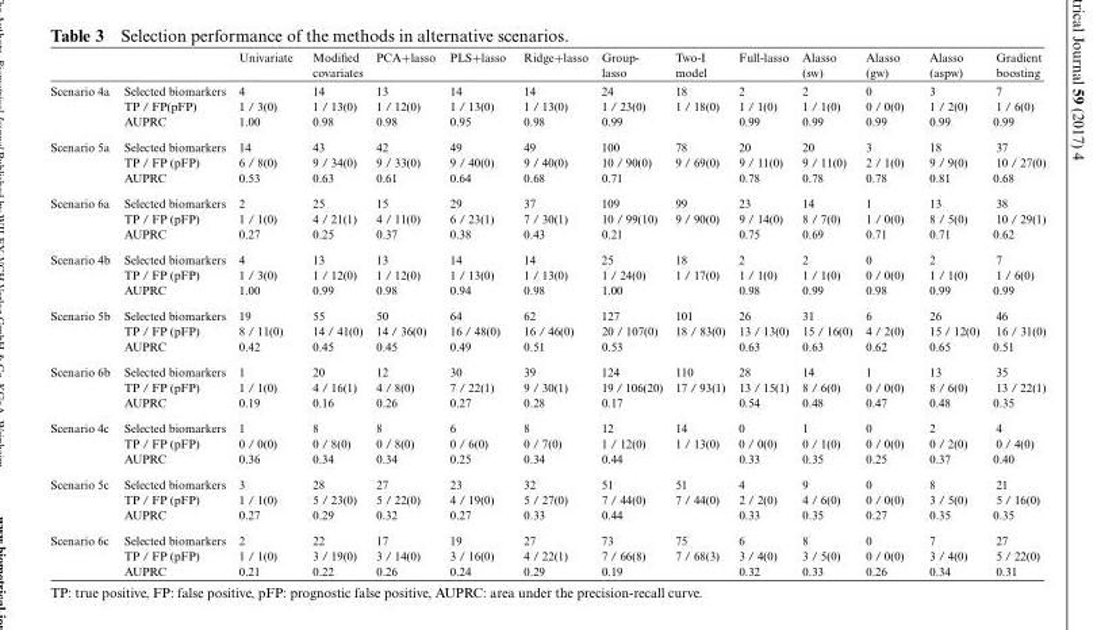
<table><thead><tr><td></td><td></td><td>Univariate</td><td>Modified covariates</td><td>PCA+lasso</td><td>PLS+lasso</td><td>Ridge+lasso</td><td>Group- lasso</td><td>Two-I model</td><td>Full-lasso</td><td>Alasso (sw)</td><td>Alasso (gw)</td><td>Alasso (aspw)</td><td>Gradient boosting</td></tr></thead><tbody><tr><td rowspan="3">Scenario 4a</td><td>Selected biomarkers</td><td>4</td><td>14</td><td>13</td><td>14</td><td>14</td><td>24</td><td>18</td><td>2</td><td>2</td><td>0</td><td>3</td><td>7</td></tr><tr><td>TP / FP(pFP)</td><td>1 / 3(0)</td><td>1 / 13(0)</td><td>1 / 12(0)</td><td>1 / 13(0)</td><td>1 / 13(0)</td><td>1 / 23(0)</td><td>1 / 18(0)</td><td>1 / 1(0)</td><td>1 / 1(0)</td><td>0 / 0(0)</td><td>1 / 2(0)</td><td>1 / 6(0)</td></tr><tr><td>AUPRC</td><td>1.00</td><td>0.98</td><td>0.98</td><td>0.95</td><td>0.98</td><td>0.99</td><td></td><td>0.99</td><td>0.99</td><td>0.99</td><td>0.99</td><td>0.99</td></tr><tr><td rowspan="3">Scenario 5a</td><td>Selected biomarkers</td><td>14</td><td>43</td><td>42</td><td>49</td><td>49</td><td>100</td><td>78</td><td>20</td><td>20</td><td>3</td><td>18</td><td>37</td></tr><tr><td>TP / FP (pFP)</td><td>6 / 8(0)</td><td>9 / 34(0)</td><td>9 / 33(0)</td><td>9 / 40(0)</td><td>9 / 40(0)</td><td>10 / 90(0)</td><td>9 / 69(0)</td><td>9 / 11(0)</td><td>9 / 11(0)</td><td>2 / 1(0)</td><td>9 / 9(0)</td><td>10 / 27(0)</td></tr><tr><td>AUPRC</td><td>0.53</td><td>0.63</td><td>0.61</td><td>0.64</td><td>0.68</td><td>0.71</td><td></td><td>0.78</td><td>0.78</td><td>0.78</td><td>0.81</td><td>0.68</td></tr><tr><td rowspan="3">Scenario 6a</td><td>Selected biomarkers</td><td>2</td><td>25</td><td>15</td><td>29</td><td>37</td><td>109</td><td>99</td><td>23</td><td>14</td><td>1</td><td>13</td><td>38</td></tr><tr><td>TP / FP (pFP)</td><td>1 / 1(0)</td><td>4 / 21(1)</td><td>4 / 11(0)</td><td>6 / 23(1)</td><td>7 / 30(1)</td><td>10 / 99(10)</td><td>9 / 90(0)</td><td>9 / 14(0)</td><td>8 / 7(0)</td><td>1 / 0(0)</td><td>8 / 5(0)</td><td>10 / 29(1)</td></tr><tr><td>AUPRC</td><td>0.27</td><td>0.25</td><td>0.37</td><td>0.38</td><td>0.43</td><td>0.21</td><td></td><td>0.75</td><td>0.69</td><td>0.71</td><td>0.71</td><td>0.62</td></tr><tr><td rowspan="3">Scenario 4b</td><td>Selected biomarkers</td><td>4</td><td>13</td><td>13</td><td>14</td><td>14</td><td>25</td><td>18</td><td>2</td><td>2</td><td>0</td><td>2</td><td>7</td></tr><tr><td>TP / FP (pFP)</td><td>1 / 3(0)</td><td>1 / 12(0)</td><td>1 / 12(0)</td><td>1 / 13(0)</td><td>1 / 13(0)</td><td>1 / 24(0)</td><td>1 / 17(0)</td><td>1 / 1(0)</td><td>1 / 1(0)</td><td>0 / 0(0)</td><td>1 / 1(0)</td><td>1 / 6(0)</td></tr><tr><td>AUPRC</td><td>1.00</td><td>0.99</td><td>0.98</td><td>0.94</td><td>0.98</td><td>1.00</td><td></td><td>0.98</td><td>0.99</td><td>0.98</td><td>0.99</td><td>0.99</td></tr><tr><td rowspan="3">Scenario 5b</td><td>Selected biomarkers</td><td>19</td><td>55</td><td>50</td><td>64</td><td>62</td><td>127</td><td>101</td><td>26</td><td>31</td><td>6</td><td>26</td><td>46</td></tr><tr><td>TP / FP (pFP)</td><td>8 / 11(0)</td><td>14 / 41(0)</td><td>14 / 36(0)</td><td>16 / 48(0)</td><td>16 / 46(0)</td><td>20 / 107(0)</td><td>18 / 83(0)</td><td>13 / 13(0)</td><td>15 / 16(0)</td><td>4 / 2(0)</td><td>15 / 12(0)</td><td>16 / 31(0)</td></tr><tr><td>AUPRC</td><td>0.42</td><td>0.45</td><td>0.45</td><td>0.49</td><td>0.51</td><td>0.53</td><td></td><td>0.63</td><td>0.63</td><td>0.62</td><td>0.65</td><td>0.51</td></tr><tr><td rowspan="3">Scenario 6b</td><td>Selected biomarkers</td><td>1</td><td>20</td><td>12</td><td>30</td><td>39</td><td>124</td><td>110</td><td>28</td><td>14</td><td>1</td><td>13</td><td>35</td></tr><tr><td>TP / FP (pFP)</td><td>1 / 1(0)</td><td>4 / 16(1)</td><td>4 / 8(0)</td><td>7 / 22(1)</td><td>9 / 30(1)</td><td>19 / 106(20)</td><td>17 / 93(1)</td><td>13 / 15(1)</td><td>8 / 6(0)</td><td>0 / 0(0)</td><td>8 / 6(0)</td><td>13 / 22(1)</td></tr><tr><td>AUPRC</td><td>0.19</td><td>0.16</td><td>0.26</td><td>0.27</td><td>0.28</td><td>0.17</td><td></td><td>0.54</td><td>0.48</td><td>0.47</td><td>0.48</td><td>0.35</td></tr><tr><td rowspan="3">Scenario 4c</td><td>Selected biomarkers</td><td>1</td><td>8</td><td>8</td><td>6</td><td>8</td><td>12</td><td>14</td><td>0</td><td>1</td><td>0</td><td>2</td><td>4</td></tr><tr><td>TP / FP (pFP)</td><td>0 / 0(0)</td><td>0 / 8(0)</td><td>0 / 8(0)</td><td>0 / 6(0)</td><td>0 / 7(0)</td><td>1 / 12(0)</td><td>1 / 13(0)</td><td>0 / 0(0)</td><td>0 / 1(0)</td><td>0 / 0(0)</td><td>0 / 2(0)</td><td>0 / 4(0)</td></tr><tr><td>AUPRC</td><td>0.36</td><td>0.34</td><td>0.34</td><td>0.25</td><td>0.34</td><td>0.44</td><td></td><td>0.33</td><td>0.35</td><td>0.25</td><td>0.37</td><td>0.40</td></tr><tr><td rowspan="3">Scenario 5c</td><td>Selected biomarkers</td><td>3</td><td>28</td><td>27</td><td>23</td><td>32</td><td>51</td><td>51</td><td>4</td><td>9</td><td>0</td><td>8</td><td>21</td></tr><tr><td>TP / FP (pFP)</td><td>1 / 1(0)</td><td>5 / 23(0)</td><td>5 / 22(0)</td><td>4 / 19(0)</td><td>5 / 27(0)</td><td>7 / 44(0)</td><td>7 / 44(0)</td><td>2 / 2(0)</td><td>4 / 6(0)</td><td>0 / 0(0)</td><td>3 / 5(0)</td><td>5 / 16(0)</td></tr><tr><td>AUPRC</td><td>0.27</td><td>0.29</td><td>0.32</td><td>0.27</td><td>0.33</td><td>0.44</td><td></td><td>0.33</td><td>0.35</td><td>0.27</td><td>0.35</td><td>0.35</td></tr><tr><td rowspan="3">Scenario 6c</td><td>Selected biomarkers</td><td>2</td><td>22</td><td>17</td><td>19</td><td>27</td><td>73</td><td>75</td><td>6</td><td>8</td><td>0</td><td>7</td><td>27</td></tr><tr><td>TP / FP (pFP)</td><td>1 / 1(0)</td><td>3 / 19(0)</td><td>3 / 14(0)</td><td>3 / 16(0)</td><td>4 / 22(1)</td><td>7 / 66(8)</td><td>7 / 68(3)</td><td>3 / 4(0)</td><td>3 / 5(0)</td><td>0 / 0(0)</td><td>3 / 4(0)</td><td>5 / 22(0)</td></tr><tr><td>AUPRC</td><td>0.21</td><td>0.22</td><td>0.26</td><td>0.24</td><td>0.29</td><td>0.19</td><td></td><td>0.32</td><td>0.33</td><td>0.26</td><td>0.34</td><td>0.31</td></tr></tbody></table>